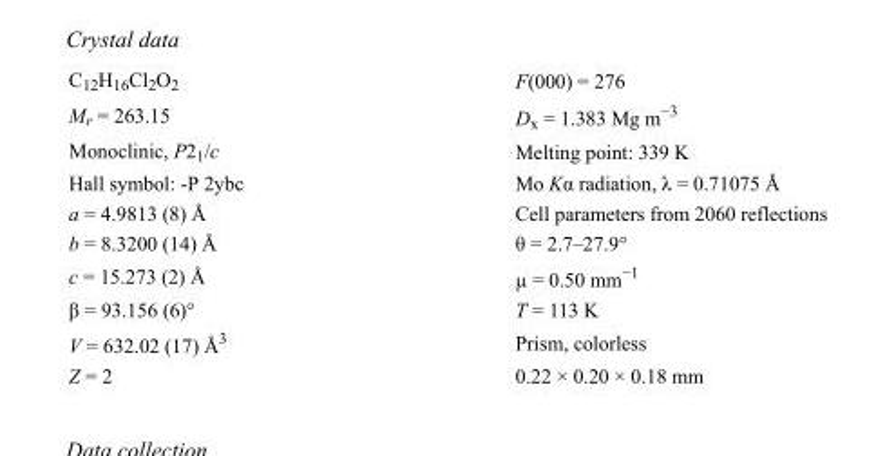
<table><tbody><tr><td>C<sub>12</sub>H<sub>16</sub>Cl<sub>2</sub>O<sub>2</sub></td><td>F(000) = 276</td></tr><tr><td>M<sub>r</sub> = 263.15</td><td>D<sub>x</sub> = 1.383 Mg m<sup>−3</sup></td></tr><tr><td>Monoclinic, P2<sub>1</sub>/c</td><td>Melting point: 339 K</td></tr><tr><td>Hall symbol: -P 2ybc</td><td>Mo Kα radiation, λ = 0.71075 Å</td></tr><tr><td>a = 4.9813 (8) Å</td><td>Cell parameters from 2060 reflections</td></tr><tr><td>b = 8.3200 (14) Å</td><td>θ = 2.7–27.9°</td></tr><tr><td>c = 15.273 (2) Å</td><td>µ = 0.50 mm<sup>−1</sup></td></tr><tr><td>β = 93.156 (6)°</td><td>T = 113 K</td></tr><tr><td>V = 632.02 (17) Å<sup>3</sup></td><td>Prism, colorless</td></tr><tr><td>Z = 2</td><td>0.22 × 0.20 × 0.18 mm</td></tr></tbody></table>